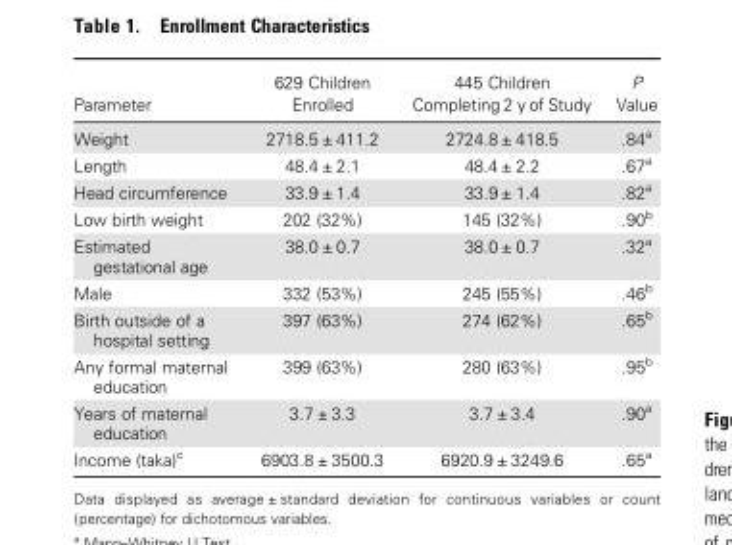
<table><thead><tr><td>Parameter</td><td>629 Children Enrolled</td><td>445 Children Completing 2 y of Study</td><td>P Value</td></tr></thead><tbody><tr><td>Weight</td><td>2718.5 ± 411.2</td><td>2724.8 ± 418.5</td><td>.84<sup>a</sup></td></tr><tr><td>Length</td><td>48.4 ± 2.1</td><td>48.4 ± 2.2</td><td>.67<sup>a</sup></td></tr><tr><td>Head circumference</td><td>33.9 ± 1.4</td><td>33.9 ± 1.4</td><td>.82<sup>a</sup></td></tr><tr><td>Low birth weight</td><td>202 (32%)</td><td>145 (32%)</td><td>.90<sup>b</sup></td></tr><tr><td>Estimated gestational age</td><td>38.0 ± 0.7</td><td>38.0 ± 0.7</td><td>.32<sup>a</sup></td></tr><tr><td>Male</td><td>332 (53%)</td><td>245 (55%)</td><td>.46<sup>b</sup></td></tr><tr><td>Birth outside of a hospital setting</td><td>397 (63%)</td><td>274 (62%)</td><td>.65<sup>b</sup></td></tr><tr><td>Any formal maternal education</td><td>399 (63%)</td><td>280 (63%)</td><td>.95<sup>b</sup></td></tr><tr><td>Years of maternal education</td><td>3.7 ± 3.3</td><td>3.7 ± 3.4</td><td>.90<sup>a</sup></td></tr><tr><td>Income (taka)<sup>c</sup></td><td>6903.8 ± 3500.3</td><td>6920.9 ± 3249.6</td><td>.65<sup>a</sup></td></tr></tbody></table>